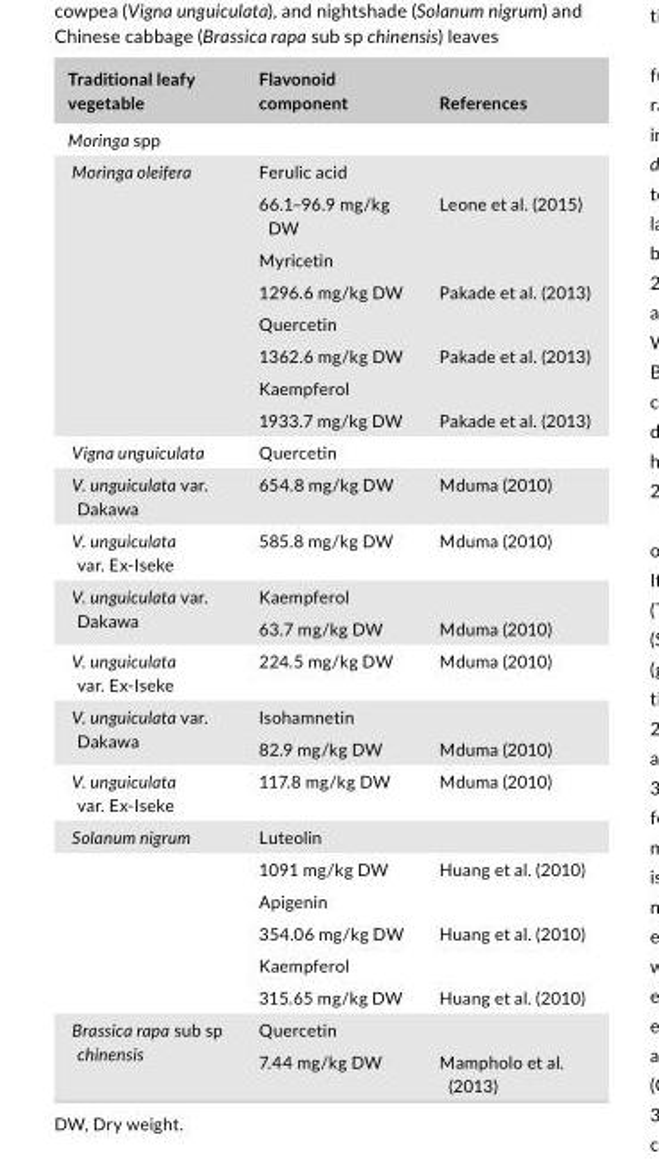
<table><thead><tr><td>Traditional leafy vegetable</td><td>Flavonoid component</td><td>References</td></tr></thead><tbody><tr><td colspan="3">Moringa spp</td></tr><tr><td rowspan="8">Moringa oleifera</td><td>Ferulic acid</td><td></td></tr><tr><td>66.1–96.9 mg/kg DW</td><td>Leone et al. (2015)</td></tr><tr><td>Myricetin</td><td></td></tr><tr><td>1296.6 mg/kg DW</td><td>Pakade et al. (2013)</td></tr><tr><td>Quercetin</td><td></td></tr><tr><td>1362.6 mg/kg DW</td><td>Pakade et al. (2013)</td></tr><tr><td>Kaempferol</td><td></td></tr><tr><td>1933.7 mg/kg DW</td><td>Pakade et al. (2013)</td></tr><tr><td>Vigna unguiculata</td><td>Quercetin</td><td></td></tr><tr><td>V. unguiculata var. Dakawa</td><td>654.8 mg/kg DW</td><td>Mduma (2010)</td></tr><tr><td>V. unguiculata var. Ex- Iseke</td><td>585.8 mg/kg DW</td><td>Mduma (2010)</td></tr><tr><td rowspan="2">V. unguiculata var. Dakawa</td><td>Kaempferol</td><td></td></tr><tr><td>63.7 mg/kg DW</td><td>Mduma (2010)</td></tr><tr><td>V. unguiculata var. Ex- Iseke</td><td>224.5 mg/kg DW</td><td>Mduma (2010)</td></tr><tr><td rowspan="2">V. unguiculata var. Dakawa</td><td>Isohamnetin</td><td></td></tr><tr><td>82.9 mg/kg DW</td><td>Mduma (2010)</td></tr><tr><td>V. unguiculata var. Ex- Iseke</td><td>117.8 mg/kg DW</td><td>Mduma (2010)</td></tr><tr><td rowspan="6">Solanum nigrum</td><td>Luteolin</td><td></td></tr><tr><td>1091 mg/kg DW</td><td>Huang et al. (2010)</td></tr><tr><td>Apigenin</td><td></td></tr><tr><td>354.06 mg/kg DW</td><td>Huang et al. (2010)</td></tr><tr><td>Kaempferol</td><td></td></tr><tr><td>315.65 mg/kg DW</td><td>Huang et al. (2010)</td></tr><tr><td rowspan="2">Brassica rapa sub sp chinensis</td><td>Quercetin</td><td></td></tr><tr><td>7.44 mg/kg DW</td><td>Mampholo et al. (2013)</td></tr></tbody></table>